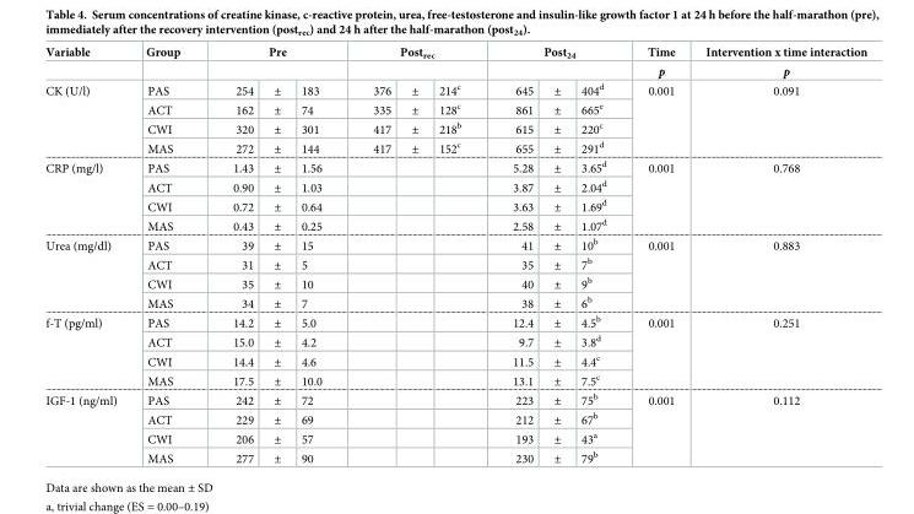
<table><thead><tr><td rowspan="2">Variable</td><td rowspan="2">Group</td><td colspan="3">Pre</td><td colspan="3">Post<sub>rec</sub></td><td colspan="3">Post<sub>24</sub></td><td rowspan="2">Time p</td><td rowspan="2">Intervention x time interaction p</td></tr><tr><td></td><td></td><td></td><td></td><td></td><td></td><td></td><td></td><td></td></tr></thead><tbody><tr><td rowspan="4">CK (U/l)</td><td>PAS</td><td>254</td><td>±</td><td>183</td><td>376</td><td>±</td><td>214<sup>c</sup></td><td>645</td><td>±</td><td>404<sup>d</sup></td><td rowspan="4">0.001</td><td rowspan="4">0.091</td></tr><tr><td>ACT</td><td>162</td><td>±</td><td>74</td><td>335</td><td>±</td><td>128<sup>c</sup></td><td>861</td><td>±</td><td>665<sup>e</sup></td></tr><tr><td>CWI</td><td>320</td><td>±</td><td>301</td><td>417</td><td>±</td><td>218<sup>b</sup></td><td>615</td><td>±</td><td>220<sup>c</sup></td></tr><tr><td>MAS</td><td>272</td><td>±</td><td>144</td><td>417</td><td>±</td><td>152<sup>c</sup></td><td>655</td><td>±</td><td>291<sup>d</sup></td></tr><tr><td rowspan="4">CRP (mg/l)</td><td>PAS</td><td>1.43</td><td>±</td><td>1.56</td><td></td><td></td><td></td><td>5.28</td><td>±</td><td>3.65<sup>d</sup></td><td rowspan="4">0.001</td><td rowspan="4">0.768</td></tr><tr><td>ACT</td><td>0.90</td><td>±</td><td>1.03</td><td></td><td></td><td></td><td>3.87</td><td>±</td><td>2.04<sup>d</sup></td></tr><tr><td>CWI</td><td>0.72</td><td>±</td><td>0.64</td><td></td><td></td><td></td><td>3.63</td><td>±</td><td>1.69<sup>d</sup></td></tr><tr><td>MAS</td><td>0.43</td><td>±</td><td>0.25</td><td></td><td></td><td></td><td>2.58</td><td>±</td><td>1.07<sup>d</sup></td></tr><tr><td rowspan="4">Urea (mg/dl)</td><td>PAS</td><td>39</td><td>±</td><td>15</td><td></td><td></td><td></td><td>41</td><td>±</td><td>10<sup>b</sup></td><td rowspan="4">0.001</td><td rowspan="4">0.883</td></tr><tr><td>ACT</td><td>31</td><td>±</td><td>5</td><td></td><td></td><td></td><td>35</td><td>±</td><td>7<sup>b</sup></td></tr><tr><td>CWI</td><td>35</td><td>±</td><td>10</td><td></td><td></td><td></td><td>40</td><td>±</td><td>9<sup>b</sup></td></tr><tr><td>MAS</td><td>34</td><td>±</td><td>7</td><td></td><td></td><td></td><td>38</td><td>±</td><td>6<sup>b</sup></td></tr><tr><td rowspan="4">f-T (pg/ml)</td><td>PAS</td><td>14.2</td><td>±</td><td>5.0</td><td></td><td></td><td></td><td>12.4</td><td>±</td><td>4.5<sup>b</sup></td><td rowspan="4">0.001</td><td rowspan="4">0.251</td></tr><tr><td>ACT</td><td>15.0</td><td>±</td><td>4.2</td><td></td><td></td><td></td><td>9.7</td><td>±</td><td>3.8<sup>d</sup></td></tr><tr><td>CWI</td><td>14.4</td><td>±</td><td>4.6</td><td></td><td></td><td></td><td>11.5</td><td>±</td><td>4.4<sup>c</sup></td></tr><tr><td>MAS</td><td>17.5</td><td>±</td><td>10.0</td><td></td><td></td><td></td><td>13.1</td><td>±</td><td>7.5<sup>c</sup></td></tr><tr><td rowspan="4">IGF-1 (ng/ml)</td><td>PAS</td><td>242</td><td>±</td><td>72</td><td></td><td></td><td></td><td>223</td><td>±</td><td>75<sup>b</sup></td><td rowspan="4">0.001</td><td rowspan="4">0.112</td></tr><tr><td>ACT</td><td>229</td><td>±</td><td>69</td><td></td><td></td><td></td><td>212</td><td>±</td><td>67<sup>b</sup></td></tr><tr><td>CWI</td><td>206</td><td>±</td><td>57</td><td></td><td></td><td></td><td>193</td><td>±</td><td>43<sup>a</sup></td></tr><tr><td>MAS</td><td>277</td><td>±</td><td>90</td><td></td><td></td><td></td><td>230</td><td>±</td><td>79<sup>b</sup></td></tr></tbody></table>